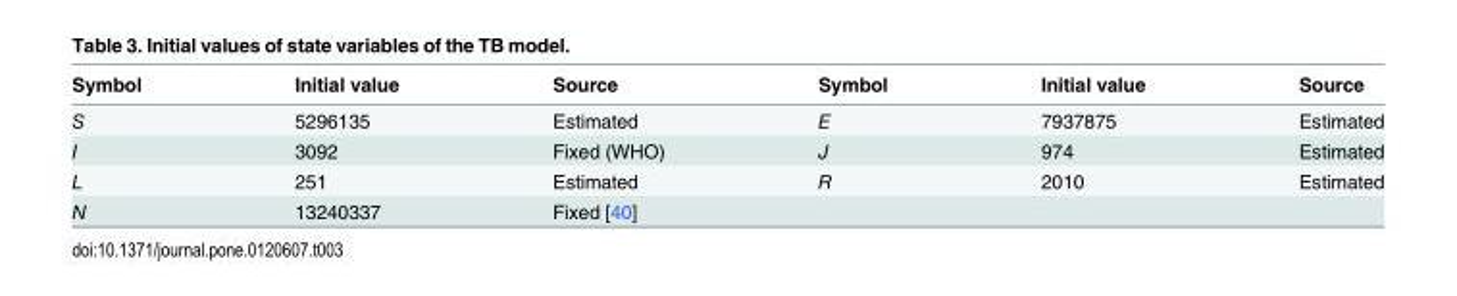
<table><thead><tr><td>Symbol</td><td>Initial value</td><td>Source</td><td>Symbol</td><td>Initial value</td><td>Source</td></tr></thead><tbody><tr><td>S</td><td>5296135</td><td>Estimated</td><td>E</td><td>7937875</td><td>Estimated</td></tr><tr><td>I</td><td>3092</td><td>Fixed (WHO)</td><td>J</td><td>974</td><td>Estimated</td></tr><tr><td>L</td><td>251</td><td>Estimated</td><td>R</td><td>2010</td><td>Estimated</td></tr><tr><td>N</td><td>13240337</td><td>Fixed [40]</td><td></td><td></td><td></td></tr></tbody></table>